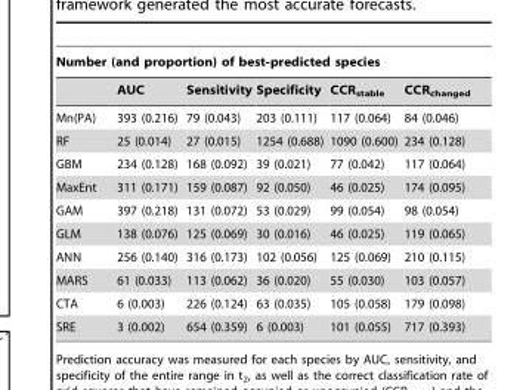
<table><thead><tr><td colspan="6">Number (and proportion) of best-predicted species</td></tr><tr><td></td><td>AUC</td><td>Sensitivity</td><td>Specificity</td><td>CCR<sub>stable</sub></td><td>CCR<sub>changed</sub></td></tr></thead><tbody><tr><td>Mn(PA)</td><td>393 (0.216)</td><td>79 (0.043)</td><td>203 (0.111)</td><td>117 (0.064)</td><td>84 (0.046)</td></tr><tr><td>RF</td><td>25 (0.014)</td><td>27 (0.015)</td><td>1254 (0.688)</td><td>1090 (0.600)</td><td>234 (0.128)</td></tr><tr><td>GBM</td><td>234 (0.128)</td><td>168 (0.092)</td><td>39 (0.021)</td><td>77 (0.042)</td><td>117 (0.064)</td></tr><tr><td>MaxEnt</td><td>311 (0.171)</td><td>159 (0.087)</td><td>92 (0.050)</td><td>46 (0.025)</td><td>174 (0.095)</td></tr><tr><td>GAM</td><td>397 (0.218)</td><td>131 (0.072)</td><td>53 (0.029)</td><td>99 (0.054)</td><td>98 (0.054)</td></tr><tr><td>GLM</td><td>138 (0.076)</td><td>125 (0.069)</td><td>30 (0.016)</td><td>46 (0.025)</td><td>119 (0.065)</td></tr><tr><td>ANN</td><td>256 (0.140)</td><td>316 (0.173)</td><td>102 (0.056)</td><td>125 (0.069)</td><td>210 (0.115)</td></tr><tr><td>MARS</td><td>61 (0.033)</td><td>113 (0.062)</td><td>36 (0.020)</td><td>55 (0.030)</td><td>103 (0.057)</td></tr><tr><td>CTA</td><td>6 (0.003)</td><td>226 (0.124)</td><td>63 (0.035)</td><td>105 (0.058)</td><td>179 (0.098)</td></tr><tr><td>SRE</td><td>3 (0.002)</td><td>654 (0.359)</td><td>6 (0.003)</td><td>101 (0.055)</td><td>717 (0.393)</td></tr></tbody></table>